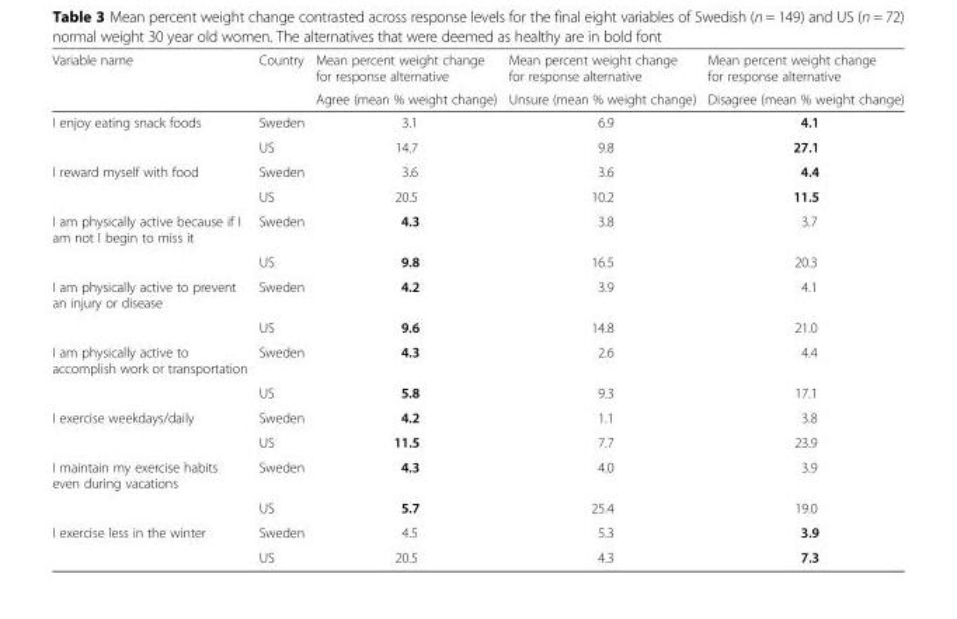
<table><thead><tr><td rowspan="2">Variable name</td><td rowspan="2">Country</td><td rowspan="2">Mean percent weight change for response alternative Agree (mean % weight change)</td><td rowspan="2">Mean percent weight change for response alternative Unsure (mean % weight change)</td><td rowspan="2">Mean percent weight change for response alternative Disagree (mean % weight change)</td></tr><tr></tr></thead><tbody><tr><td rowspan="2">I enjoy eating snack foods</td><td>Sweden</td><td>3.1</td><td>6.9</td><td>4.1</td></tr><tr><td>US</td><td>14.7</td><td>9.8</td><td>27.1</td></tr><tr><td rowspan="2">I reward myself with food</td><td>Sweden</td><td>3.6</td><td>3.6</td><td>4.4</td></tr><tr><td>US</td><td>20.5</td><td>10.2</td><td>11.5</td></tr><tr><td rowspan="2">I am physically active because if I am not I begin to miss it</td><td>Sweden</td><td>4.3</td><td>3.8</td><td>3.7</td></tr><tr><td>US</td><td>9.8</td><td>16.5</td><td>20.3</td></tr><tr><td rowspan="2">I am physically active to prevent an injury or disease</td><td>Sweden</td><td>4.2</td><td>3.9</td><td>4.1</td></tr><tr><td>US</td><td>9.6</td><td>14.8</td><td>21.0</td></tr><tr><td rowspan="2">I am physically active to accomplish work or transportation</td><td>Sweden</td><td>4.3</td><td>2.6</td><td>4.4</td></tr><tr><td>US</td><td>5.8</td><td>9.3</td><td>17.1</td></tr><tr><td rowspan="2">I exercise weekdays/daily</td><td>Sweden</td><td>4.2</td><td>1.1</td><td>3.8</td></tr><tr><td>US</td><td>11.5</td><td>7.7</td><td>23.9</td></tr><tr><td rowspan="2">I maintain my exercise habits even during vacations</td><td>Sweden</td><td>4.3</td><td>4.0</td><td>3.9</td></tr><tr><td>US</td><td>5.7</td><td>25.4</td><td>19.0</td></tr><tr><td rowspan="2">I exercise less in the winter</td><td>Sweden</td><td>4.5</td><td>5.3</td><td>3.9</td></tr><tr><td>US</td><td>20.5</td><td>4.3</td><td>7.3</td></tr></tbody></table>